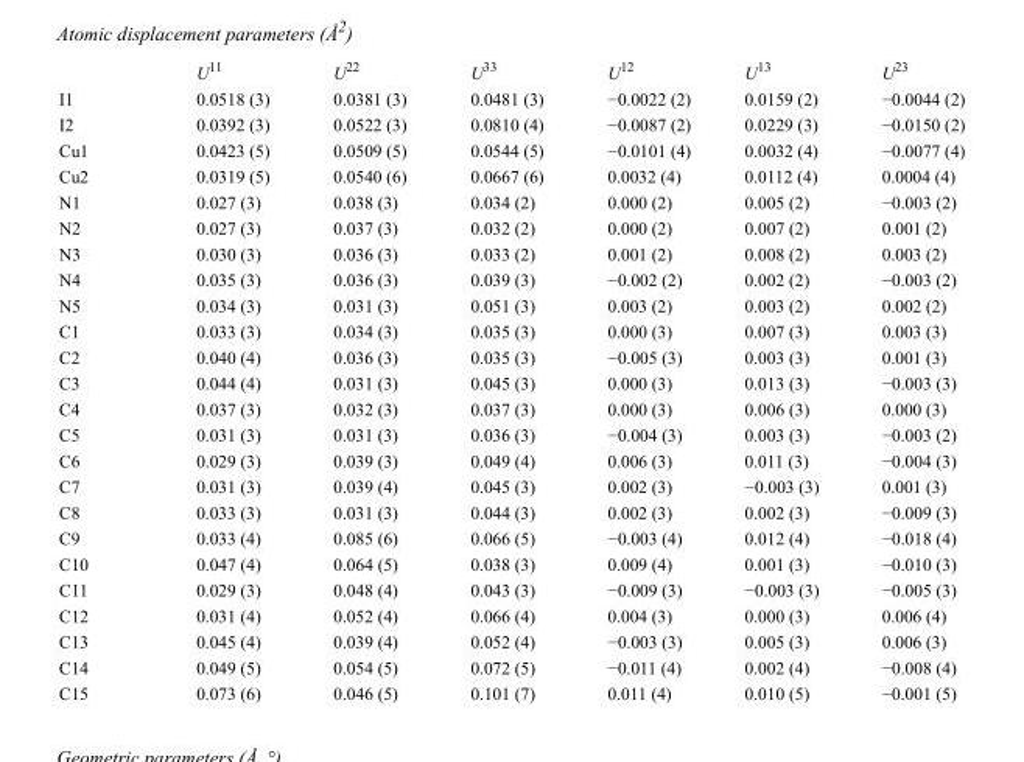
<table><thead><tr><td></td><td>U<sup>11</sup></td><td>U<sup>22</sup></td><td>U<sup>33</sup></td><td>U<sup>12</sup></td><td>U<sup>13</sup></td><td>U<sup>23</sup></td></tr></thead><tbody><tr><td>I1</td><td>0.0518 (3)</td><td>0.0381 (3)</td><td>0.0481 (3)</td><td>−0.0022 (2)</td><td>0.0159 (2)</td><td>−0.0044 (2)</td></tr><tr><td>I2</td><td>0.0392 (3)</td><td>0.0522 (3)</td><td>0.0810 (4)</td><td>−0.0087 (2)</td><td>0.0229 (3)</td><td>−0.0150 (2)</td></tr><tr><td>Cu1</td><td>0.0423 (5)</td><td>0.0509 (5)</td><td>0.0544 (5)</td><td>−0.0101 (4)</td><td>0.0032 (4)</td><td>−0.0077 (4)</td></tr><tr><td>Cu2</td><td>0.0319 (5)</td><td>0.0540 (6)</td><td>0.0667 (6)</td><td>0.0032 (4)</td><td>0.0112 (4)</td><td>0.0004 (4)</td></tr><tr><td>N1</td><td>0.027 (3)</td><td>0.038 (3)</td><td>0.034 (2)</td><td>0.000 (2)</td><td>0.005 (2)</td><td>−0.003 (2)</td></tr><tr><td>N2</td><td>0.027 (3)</td><td>0.037 (3)</td><td>0.032 (2)</td><td>0.000 (2)</td><td>0.007 (2)</td><td>0.001 (2)</td></tr><tr><td>N3</td><td>0.030 (3)</td><td>0.036 (3)</td><td>0.033 (2)</td><td>0.001 (2)</td><td>0.008 (2)</td><td>0.003 (2)</td></tr><tr><td>N4</td><td>0.035 (3)</td><td>0.036 (3)</td><td>0.039 (3)</td><td>−0.002 (2)</td><td>0.002 (2)</td><td>−0.003 (2)</td></tr><tr><td>N5</td><td>0.034 (3)</td><td>0.031 (3)</td><td>0.051 (3)</td><td>0.003 (2)</td><td>0.003 (2)</td><td>0.002 (2)</td></tr><tr><td>C1</td><td>0.033 (3)</td><td>0.034 (3)</td><td>0.035 (3)</td><td>0.000 (3)</td><td>0.007 (3)</td><td>0.003 (3)</td></tr><tr><td>C2</td><td>0.040 (4)</td><td>0.036 (3)</td><td>0.035 (3)</td><td>−0.005 (3)</td><td>0.003 (3)</td><td>0.001 (3)</td></tr><tr><td>C3</td><td>0.044 (4)</td><td>0.031 (3)</td><td>0.045 (3)</td><td>0.000 (3)</td><td>0.013 (3)</td><td>−0.003 (3)</td></tr><tr><td>C4</td><td>0.037 (3)</td><td>0.032 (3)</td><td>0.037 (3)</td><td>0.000 (3)</td><td>0.006 (3)</td><td>0.000 (3)</td></tr><tr><td>C5</td><td>0.031 (3)</td><td>0.031 (3)</td><td>0.036 (3)</td><td>−0.004 (3)</td><td>0.003 (3)</td><td>−0.003 (2)</td></tr><tr><td>C6</td><td>0.029 (3)</td><td>0.039 (3)</td><td>0.049 (4)</td><td>0.006 (3)</td><td>0.011 (3)</td><td>−0.004 (3)</td></tr><tr><td>C7</td><td>0.031 (3)</td><td>0.039 (4)</td><td>0.045 (3)</td><td>0.002 (3)</td><td>−0.003 (3)</td><td>0.001 (3)</td></tr><tr><td>C8</td><td>0.033 (3)</td><td>0.031 (3)</td><td>0.044 (3)</td><td>0.002 (3)</td><td>0.002 (3)</td><td>−0.009 (3)</td></tr><tr><td>C9</td><td>0.033 (4)</td><td>0.085 (6)</td><td>0.066 (5)</td><td>−0.003 (4)</td><td>0.012 (4)</td><td>−0.018 (4)</td></tr><tr><td>C10</td><td>0.047 (4)</td><td>0.064 (5)</td><td>0.038 (3)</td><td>0.009 (4)</td><td>0.001 (3)</td><td>−0.010 (3)</td></tr><tr><td>C11</td><td>0.029 (3)</td><td>0.048 (4)</td><td>0.043 (3)</td><td>−0.009 (3)</td><td>−0.003 (3)</td><td>−0.005 (3)</td></tr><tr><td>C12</td><td>0.031 (4)</td><td>0.052 (4)</td><td>0.066 (4)</td><td>0.004 (3)</td><td>0.000 (3)</td><td>0.006 (4)</td></tr><tr><td>C13</td><td>0.045 (4)</td><td>0.039 (4)</td><td>0.052 (4)</td><td>−0.003 (3)</td><td>0.005 (3)</td><td>0.006 (3)</td></tr><tr><td>C14</td><td>0.049 (5)</td><td>0.054 (5)</td><td>0.072 (5)</td><td>−0.011 (4)</td><td>0.002 (4)</td><td>−0.008 (4)</td></tr><tr><td>C15</td><td>0.073 (6)</td><td>0.046 (5)</td><td>0.101 (7)</td><td>0.011 (4)</td><td>0.010 (5)</td><td>−0.001 (5)</td></tr></tbody></table>